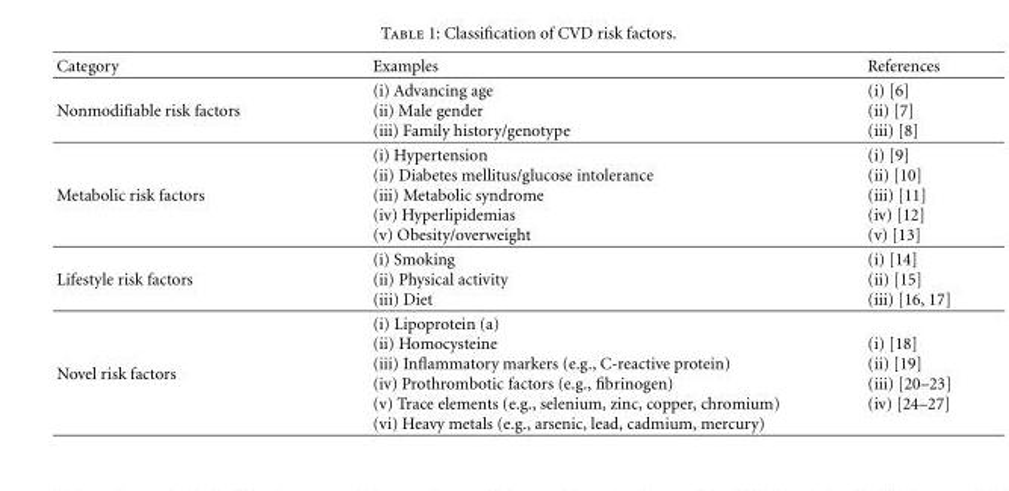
<table><thead><tr><td>Category</td><td>Examples</td><td>References</td></tr></thead><tbody><tr><td>Nonmodifiable risk factors</td><td>(i) Advancing age (ii) Male gender (iii) Family history/genotype</td><td>(i) [6] (ii) [7] (iii) [8]</td></tr><tr><td>Metabolic risk factors</td><td>(i) Hypertension (ii) Diabetes mellitus/glucose intolerance (iii) Metabolic syndrome (iv) Hyperlipidemias (v) Obesity/overweight</td><td>(i) [9] (ii) [10] (iii) [11] (iv) [12] (v) [13]</td></tr><tr><td>Lifestyle risk factors</td><td>(i) Smoking (ii) Physical activity (iii) Diet</td><td>(i) [14] (ii) [15] (iii) [16, 17]</td></tr><tr><td>Novel risk factors</td><td>(i) Lipoprotein (a) (ii) Homocysteine (iii) Inflammatory markers (e.g., C-reactive protein) (iv) Prothrombotic factors (e.g., fibrinogen) (v) Trace elements (e.g., selenium, zinc, copper, chromium) (vi) Heavy metals (e.g., arsenic, lead, cadmium, mercury)</td><td>(i) [18] (ii) [19] (iii) [20–23] (iv) [24–27]</td></tr></tbody></table>